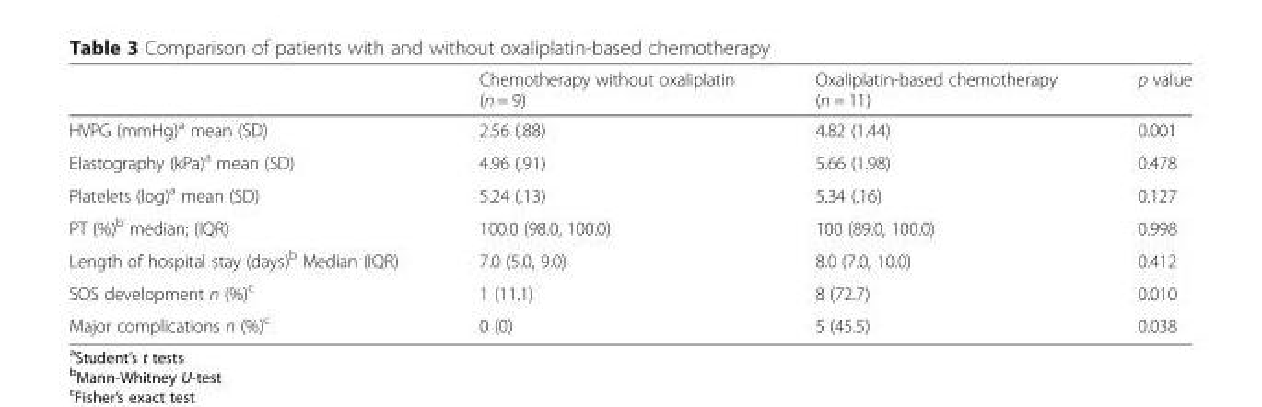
<table><thead><tr><td></td><td>Chemotherapy without oxaliplatin (n = 9)</td><td>Oxaliplatin-based chemotherapy (n = 11)</td><td>p value</td></tr></thead><tbody><tr><td>HVPG (mmHg)<sup>a</sup> mean (SD)</td><td>2.56 (.88)</td><td>4.82 (1.44)</td><td>0.001</td></tr><tr><td>Elastography (kPa)<sup>a</sup> mean (SD)</td><td>4.96 (.91)</td><td>5.66 (1.98)</td><td>0.478</td></tr><tr><td>Platelets (log)<sup>a</sup> mean (SD)</td><td>5.24 (.13)</td><td>5.34 (.16)</td><td>0.127</td></tr><tr><td>PT (%)<sup>b</sup> median; (IQR)</td><td>100.0 (98.0, 100.0)</td><td>100 (89.0, 100.0)</td><td>0.998</td></tr><tr><td>Length of hospital stay (days)<sup>b</sup> Median (IQR)</td><td>7.0 (5.0, 9.0)</td><td>8.0 (7.0, 10.0)</td><td>0.412</td></tr><tr><td>SOS development n (%)<sup>c</sup></td><td>1 (11.1)</td><td>8 (72.7)</td><td>0.010</td></tr><tr><td>Major complications n (%)<sup>c</sup></td><td>0 (0)</td><td>5 (45.5)</td><td>0.038</td></tr></tbody></table>